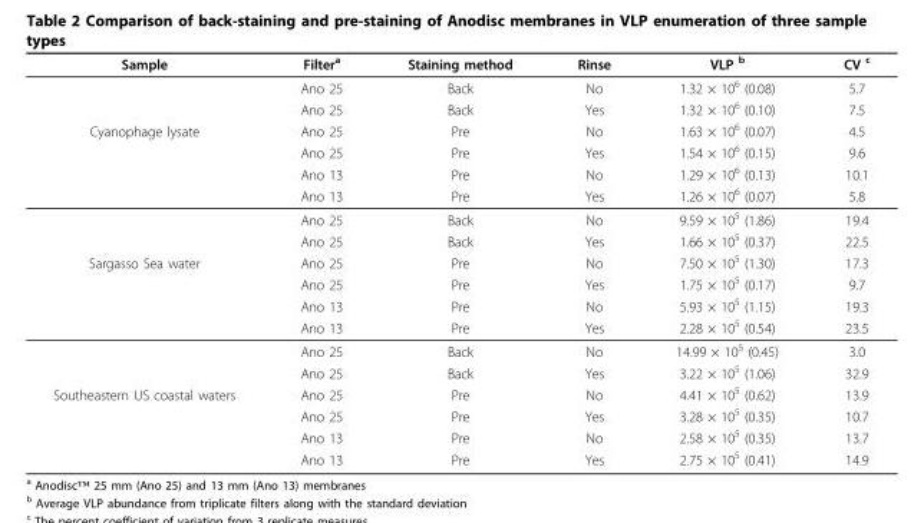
<table><thead><tr><td>Sample</td><td>Filter<sup>a</sup></td><td>Staining method</td><td>Rinse</td><td>VLP <sup>b</sup></td><td>CV <sup>c</sup></td></tr></thead><tbody><tr><td></td><td>Ano 25</td><td>Back</td><td>No</td><td>1.32 × 10<sup>6</sup> (0.08)</td><td>5.7</td></tr><tr><td></td><td>Ano 25</td><td>Back</td><td>Yes</td><td>1.32 × 10<sup>6</sup> (0.10)</td><td>7.5</td></tr><tr><td rowspan="6">Cyanophage lysate</td><td>Ano 25</td><td>Pre</td><td>No</td><td>1.63 × 10<sup>6</sup> (0.07)</td><td>4.5</td></tr><tr><td>Ano 25</td><td>Pre</td><td>Yes</td><td>1.54 × 10<sup>6</sup> (0.15)</td><td>9.6</td></tr><tr><td>Ano 13</td><td>Pre</td><td>No</td><td>1.29 × 10<sup>6</sup> (0.13)</td><td>10.1</td></tr><tr><td>Ano 13</td><td>Pre</td><td>Yes</td><td>1.26 × 10<sup>6</sup> (0.07)</td><td>5.8</td></tr><tr><td>Ano 25</td><td>Back</td><td>No</td><td>9.59 × 10<sup>5</sup> (1.86)</td><td>19.4</td></tr><tr><td>Ano 25</td><td>Back</td><td>Yes</td><td>1.66 × 10<sup>5</sup> (0.37)</td><td>22.5</td></tr><tr><td rowspan="6">Sargasso Sea water</td><td>Ano 25</td><td>Pre</td><td>No</td><td>7.50 × 10<sup>5</sup> (1.30)</td><td>17.3</td></tr><tr><td>Ano 25</td><td>Pre</td><td>Yes</td><td>1.75 × 10<sup>5</sup> (0.17)</td><td>9.7</td></tr><tr><td>Ano 13</td><td>Pre</td><td>No</td><td>5.93 × 10<sup>5</sup> (1.15)</td><td>19.3</td></tr><tr><td>Ano 13</td><td>Pre</td><td>Yes</td><td>2.28 × 10<sup>5</sup> (0.54)</td><td>23.5</td></tr><tr><td>Ano 25</td><td>Back</td><td>No</td><td>14.99 × 10<sup>5</sup> (0.45)</td><td>3.0</td></tr><tr><td>Ano 25</td><td>Back</td><td>Yes</td><td>3.22 × 10<sup>5</sup> (1.06)</td><td>32.9</td></tr><tr><td rowspan="4">Southeastern US coastal waters</td><td>Ano 25</td><td>Pre</td><td>No</td><td>4.41 × 10<sup>5</sup> (0.62)</td><td>13.9</td></tr><tr><td>Ano 25</td><td>Pre</td><td>Yes</td><td>3.28 × 10<sup>5</sup> (0.35)</td><td>10.7</td></tr><tr><td>Ano 13</td><td>Pre</td><td>No</td><td>2.58 × 10<sup>5</sup> (0.35)</td><td>13.7</td></tr><tr><td>Ano 13</td><td>Pre</td><td>Yes</td><td>2.75 × 10<sup>5</sup> (0.41)</td><td>14.9</td></tr></tbody></table>